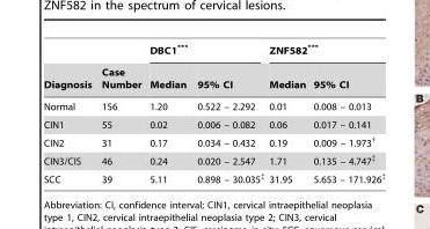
<table><thead><tr><td rowspan="2">Diagnosis</td><td rowspan="2">Case Number</td><td colspan="2">DBC1***</td><td colspan="2">ZNF582***</td></tr><tr><td>Median</td><td>95% CI</td><td>Median</td><td>95% CI</td></tr></thead><tbody><tr><td>Normal</td><td>156</td><td>1.20</td><td>0.522 – 2.292</td><td>0.01</td><td>0.008 – 0.013</td></tr><tr><td>CIN1</td><td>55</td><td>0.02</td><td>0.006 – 0.082</td><td>0.06</td><td>0.017 – 0.141</td></tr><tr><td>CIN2</td><td>31</td><td>0.17</td><td>0.034 – 0.432</td><td>0.19</td><td>0.009 – 1.973†</td></tr><tr><td>CIN3/CIS</td><td>46</td><td>0.24</td><td>0.020 – 2.547</td><td>1.71</td><td>0.135 – 4.747‡</td></tr><tr><td>SCC</td><td>39</td><td>5.11</td><td>0.898 – 30.035‡</td><td>31.95</td><td>5.653 – 171.926‡</td></tr></tbody></table>